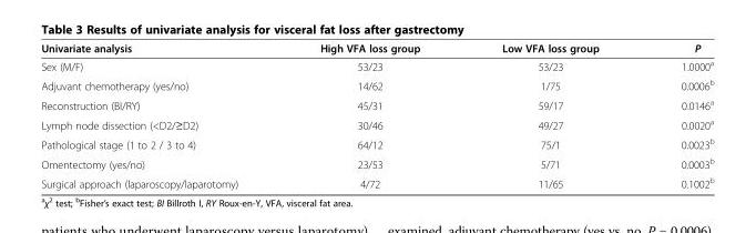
<table><thead><tr><td>Univariate analysis</td><td>High VFA loss group</td><td>Low VFA loss group</td><td>P</td></tr></thead><tbody><tr><td>Sex (M/F)</td><td>53/23</td><td>53/23</td><td>1.0000<sup>a</sup></td></tr><tr><td>Adjuvant chemotherapy (yes/no)</td><td>14/62</td><td>1/75</td><td>0.0006<sup>b</sup></td></tr><tr><td>Reconstruction (BI/RY)</td><td>45/31</td><td>59/17</td><td>0.0146<sup>a</sup></td></tr><tr><td>Lymph node dissection (&lt;D2/≥D2)</td><td>30/46</td><td>49/27</td><td>0.0020<sup>a</sup></td></tr><tr><td>Pathological stage (1 to 2 / 3 to 4)</td><td>64/12</td><td>75/1</td><td>0.0023<sup>b</sup></td></tr><tr><td>Omentectomy (yes/no)</td><td>23/53</td><td>5/71</td><td>0.0003<sup>b</sup></td></tr><tr><td>Surgical approach (laparoscopy/laparotomy)</td><td>4/72</td><td>11/65</td><td>0.1002<sup>b</sup></td></tr></tbody></table>